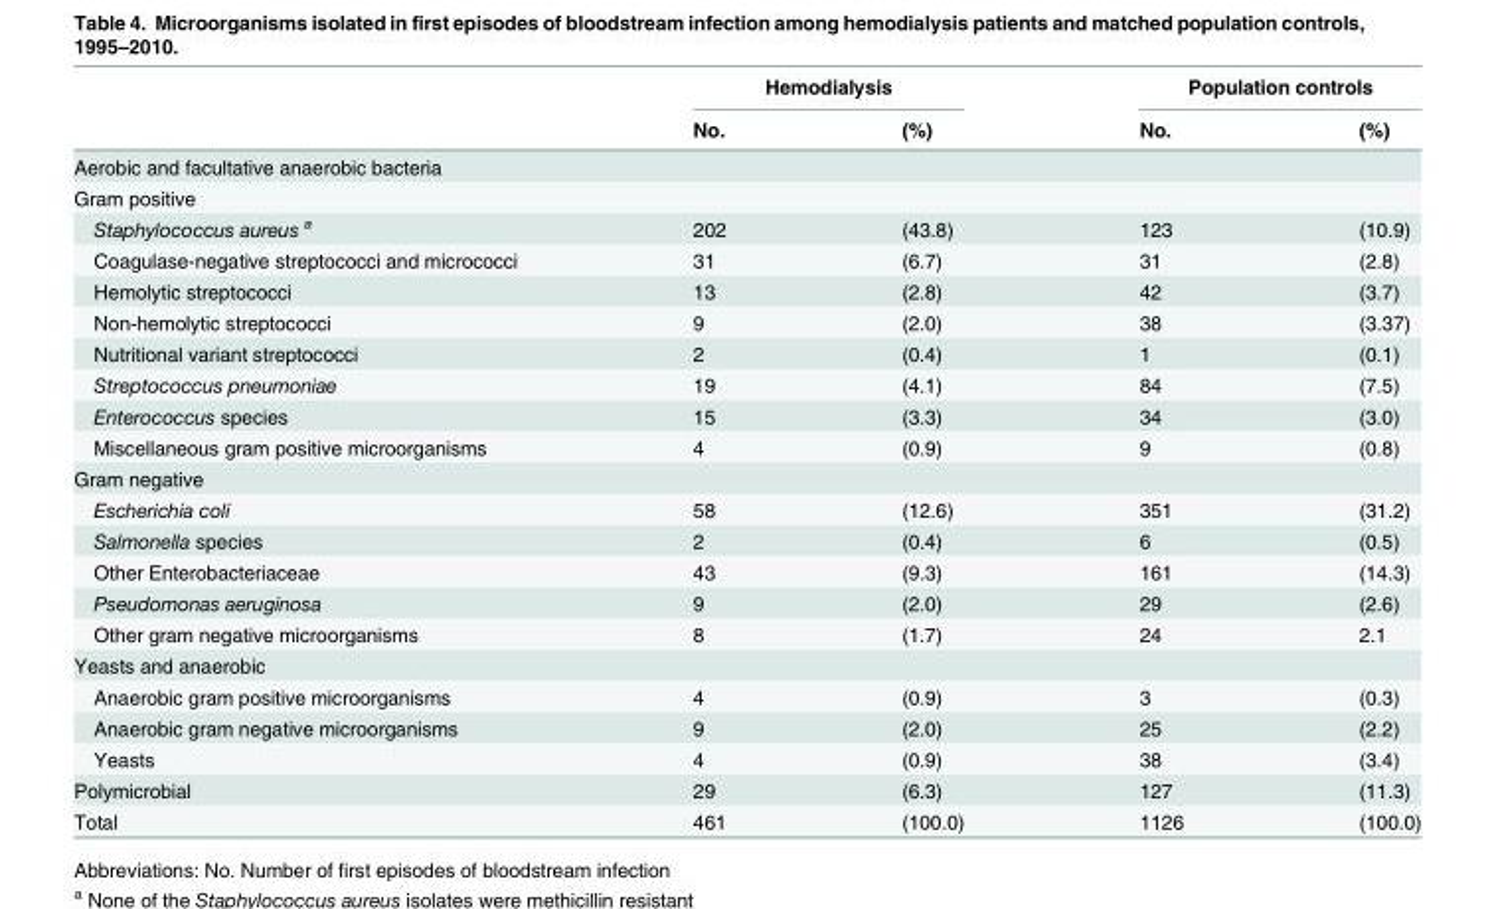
<table><thead><tr><td rowspan="2"></td><td colspan="2">Hemodialysis</td><td colspan="2">Population controls</td></tr><tr><td>No.</td><td>(%)</td><td>No.</td><td>(%)</td></tr></thead><tbody><tr><td colspan="5">Aerobic and facultative anaerobic bacteria</td></tr><tr><td colspan="5">Gram positive</td></tr><tr><td>Staphylococcus aureus <sup>a</sup></td><td>202</td><td>(43.8)</td><td>123</td><td>(10.9)</td></tr><tr><td>Coagulase-negative streptococci and micrococci</td><td>31</td><td>(6.7)</td><td>31</td><td>(2.8)</td></tr><tr><td>Hemolytic streptococci</td><td>13</td><td>(2.8)</td><td>42</td><td>(3.7)</td></tr><tr><td>Non-hemolytic streptococci</td><td>9</td><td>(2.0)</td><td>38</td><td>(3.37)</td></tr><tr><td>Nutritional variant streptococci</td><td>2</td><td>(0.4)</td><td>1</td><td>(0.1)</td></tr><tr><td>Streptococcus pneumoniae</td><td>19</td><td>(4.1)</td><td>84</td><td>(7.5)</td></tr><tr><td>Enterococcus species</td><td>15</td><td>(3.3)</td><td>34</td><td>(3.0)</td></tr><tr><td>Miscellaneous gram positive microorganisms</td><td>4</td><td>(0.9)</td><td>9</td><td>(0.8)</td></tr><tr><td colspan="5">Gram negative</td></tr><tr><td>Escherichia coli</td><td>58</td><td>(12.6)</td><td>351</td><td>(31.2)</td></tr><tr><td>Salmonella species</td><td>2</td><td>(0.4)</td><td>6</td><td>(0.5)</td></tr><tr><td>Other Enterobacteriaceae</td><td>43</td><td>(9.3)</td><td>161</td><td>(14.3)</td></tr><tr><td>Pseudomonas aeruginosa</td><td>9</td><td>(2.0)</td><td>29</td><td>(2.6)</td></tr><tr><td>Other gram negative microorganisms</td><td>8</td><td>(1.7)</td><td>24</td><td>2.1</td></tr><tr><td colspan="5">Yeasts and anaerobic</td></tr><tr><td>Anaerobic gram positive microorganisms</td><td>4</td><td>(0.9)</td><td>3</td><td>(0.3)</td></tr><tr><td>Anaerobic gram negative microorganisms</td><td>9</td><td>(2.0)</td><td>25</td><td>(2.2)</td></tr><tr><td>Yeasts</td><td>4</td><td>(0.9)</td><td>38</td><td>(3.4)</td></tr><tr><td>Polymicrobial</td><td>29</td><td>(6.3)</td><td>127</td><td>(11.3)</td></tr><tr><td>Total</td><td>461</td><td>(100.0)</td><td>1126</td><td>(100.0)</td></tr></tbody></table>